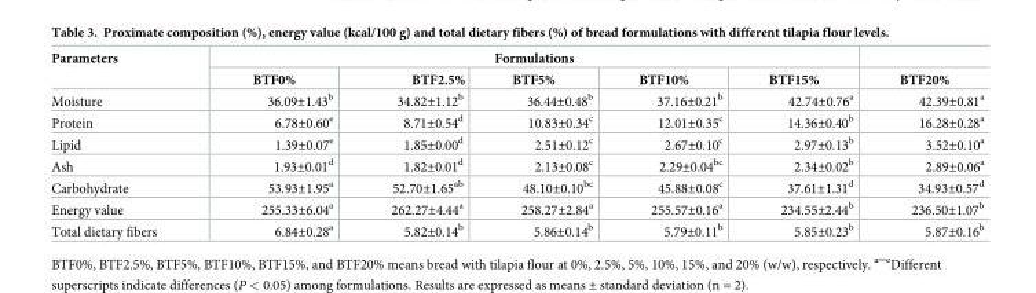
<table><thead><tr><td rowspan="2">Parameters</td><td colspan="5">Formulations</td><td rowspan="2">BTF20%</td></tr><tr><td>BTF0%</td><td>BTF2.5%</td><td>BTF5%</td><td>BTF10%</td><td>BTF15%</td></tr></thead><tbody><tr><td>Moisture</td><td>36.09±1.43<sup>b</sup></td><td>34.82±1.12<sup>b</sup></td><td>36.44±0.48<sup>b</sup></td><td>37.16±0.21<sup>b</sup></td><td>42.74±0.76<sup>a</sup></td><td>42.39±0.81<sup>a</sup></td></tr><tr><td>Protein</td><td>6.78±0.60<sup>e</sup></td><td>8.71±0.54<sup>d</sup></td><td>10.83±0.34<sup>c</sup></td><td>12.01±0.35<sup>c</sup></td><td>14.36±0.40<sup>b</sup></td><td>16.28±0.28<sup>a</sup></td></tr><tr><td>Lipid</td><td>1.39±0.07<sup>e</sup></td><td>1.85±0.00<sup>d</sup></td><td>2.51±0.12<sup>c</sup></td><td>2.67±0.10<sup>c</sup></td><td>2.97±0.13<sup>b</sup></td><td>3.52±0.10<sup>a</sup></td></tr><tr><td>Ash</td><td>1.93±0.01<sup>d</sup></td><td>1.82±0.01<sup>d</sup></td><td>2.13±0.08<sup>c</sup></td><td>2.29±0.04<sup>bc</sup></td><td>2.34±0.02<sup>b</sup></td><td>2.89±0.06<sup>a</sup></td></tr><tr><td>Carbohydrate</td><td>53.93±1.95<sup>a</sup></td><td>52.70±1.65<sup>ab</sup></td><td>48.10±0.10<sup>bc</sup></td><td>45.88±0.08<sup>c</sup></td><td>37.61±1.31<sup>d</sup></td><td>34.93±0.57<sup>d</sup></td></tr><tr><td>Energy value</td><td>255.33±6.04<sup>a</sup></td><td>262.27±4.44<sup>a</sup></td><td>258.27±2.84<sup>a</sup></td><td>255.57±0.16<sup>a</sup></td><td>234.55±2.44<sup>b</sup></td><td>236.50±1.07<sup>b</sup></td></tr><tr><td>Total dietary fibers</td><td>6.84±0.28<sup>a</sup></td><td>5.82±0.14<sup>b</sup></td><td>5.86±0.14<sup>b</sup></td><td>5.79±0.11<sup>b</sup></td><td>5.85±0.23<sup>b</sup></td><td>5.87±0.16<sup>b</sup></td></tr></tbody></table>